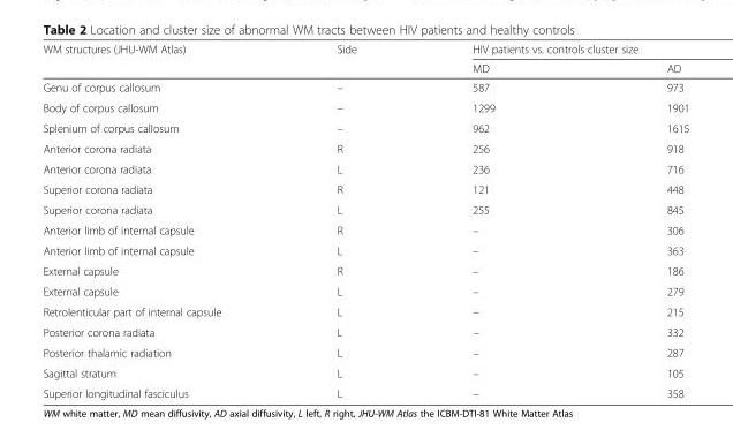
<table><thead><tr><td rowspan="2">WM structures (JHU-WM Atlas)</td><td rowspan="2">Side</td><td colspan="2">HIV patients vs. controls cluster size</td></tr><tr><td>MD</td><td>AD</td></tr></thead><tbody><tr><td>Genu of corpus callosum</td><td>–</td><td>587</td><td>973</td></tr><tr><td>Body of corpus callosum</td><td>–</td><td>1299</td><td>1901</td></tr><tr><td>Splenium of corpus callosum</td><td>–</td><td>962</td><td>1615</td></tr><tr><td>Anterior corona radiata</td><td>R</td><td>256</td><td>918</td></tr><tr><td>Anterior corona radiata</td><td>L</td><td>236</td><td>716</td></tr><tr><td>Superior corona radiata</td><td>R</td><td>121</td><td>448</td></tr><tr><td>Superior corona radiata</td><td>L</td><td>255</td><td>845</td></tr><tr><td>Anterior limb of internal capsule</td><td>R</td><td>–</td><td>306</td></tr><tr><td>Anterior limb of internal capsule</td><td>L</td><td>–</td><td>363</td></tr><tr><td>External capsule</td><td>R</td><td>–</td><td>186</td></tr><tr><td>External capsule</td><td>L</td><td>–</td><td>279</td></tr><tr><td>Retrolenticular part of internal capsule</td><td>L</td><td>–</td><td>215</td></tr><tr><td>Posterior corona radiata</td><td>L</td><td>–</td><td>332</td></tr><tr><td>Posterior thalamic radiation</td><td>L</td><td>–</td><td>287</td></tr><tr><td>Sagittal stratum</td><td>L</td><td>–</td><td>105</td></tr><tr><td>Superior longitudinal fasciculus</td><td>L</td><td>–</td><td>358</td></tr></tbody></table>